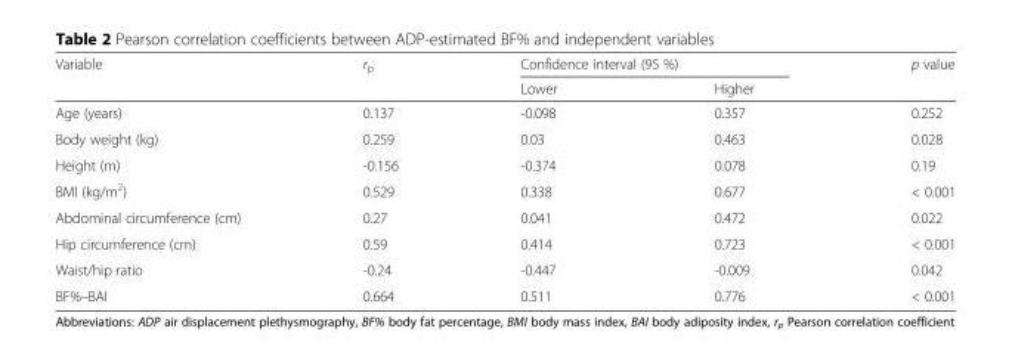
<table><thead><tr><td rowspan="2">Variable</td><td rowspan="2">r<sub>p</sub></td><td colspan="2">Confidence interval (95 %)</td><td rowspan="2">p value</td></tr><tr><td>Lower</td><td>Higher</td></tr></thead><tbody><tr><td>Age (years)</td><td>0.137</td><td>-0.098</td><td>0.357</td><td>0.252</td></tr><tr><td>Body weight (kg)</td><td>0.259</td><td>0.03</td><td>0.463</td><td>0.028</td></tr><tr><td>Height (m)</td><td>-0.156</td><td>-0.374</td><td>0.078</td><td>0.19</td></tr><tr><td>BMI (kg/m<sup>2</sup>)</td><td>0.529</td><td>0.338</td><td>0.677</td><td>&lt; 0.001</td></tr><tr><td>Abdominal circumference (cm)</td><td>0.27</td><td>0.041</td><td>0.472</td><td>0.022</td></tr><tr><td>Hip circumference (cm)</td><td>0.59</td><td>0.414</td><td>0.723</td><td>&lt; 0.001</td></tr><tr><td>Waist/hip ratio</td><td>-0.24</td><td>-0.447</td><td>-0.009</td><td>0.042</td></tr><tr><td>BF%–BAI</td><td>0.664</td><td>0.511</td><td>0.776</td><td>&lt; 0.001</td></tr></tbody></table>